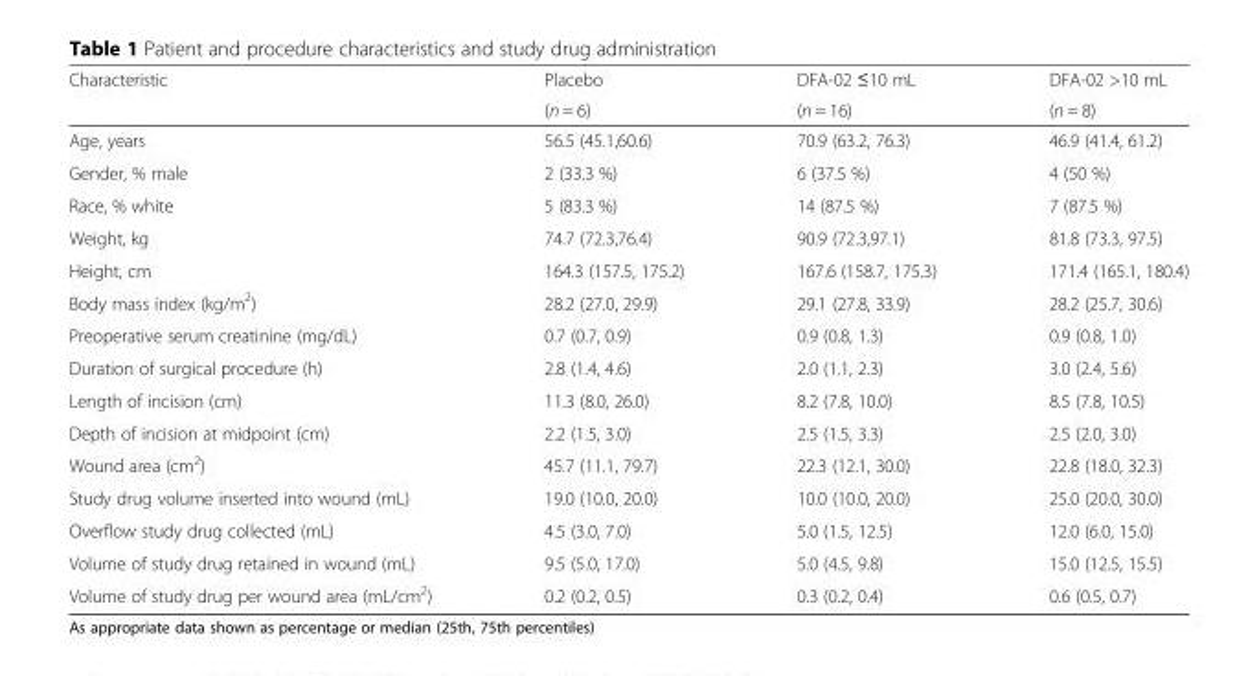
<table><thead><tr><td rowspan="2">Characteristic</td><td rowspan="2">Placebo (n = 6)</td><td rowspan="2">DFA-02 ≤10 mL (n = 16)</td><td rowspan="2">DFA-02 &gt;10 mL (n = 8)</td></tr><tr></tr></thead><tbody><tr><td>Age, years</td><td>56.5 (45.1,60.6)</td><td>70.9 (63.2, 76.3)</td><td>46.9 (41.4, 61.2)</td></tr><tr><td>Gender, % male</td><td>2 (33.3 %)</td><td>6 (37.5 %)</td><td>4 (50 %)</td></tr><tr><td>Race, % white</td><td>5 (83.3 %)</td><td>14 (87.5 %)</td><td>7 (87.5 %)</td></tr><tr><td>Weight, kg</td><td>74.7 (72.3,76.4)</td><td>90.9 (72.3,97.1)</td><td>81.8 (73.3, 97.5)</td></tr><tr><td>Height, cm</td><td>164.3 (157.5, 175.2)</td><td>167.6 (158.7, 175.3)</td><td>171.4 (165.1, 180.4)</td></tr><tr><td>Body mass index (kg/m<sup>2</sup>)</td><td>28.2 (27.0, 29.9)</td><td>29.1 (27.8, 33.9)</td><td>28.2 (25.7, 30.6)</td></tr><tr><td>Preoperative serum creatinine (mg/dL)</td><td>0.7 (0.7, 0.9)</td><td>0.9 (0.8, 1.3)</td><td>0.9 (0.8, 1.0)</td></tr><tr><td>Duration of surgical procedure (h)</td><td>2.8 (1.4, 4.6)</td><td>2.0 (1.1, 2.3)</td><td>3.0 (2.4, 5.6)</td></tr><tr><td>Length of incision (cm)</td><td>11.3 (8.0, 26.0)</td><td>8.2 (7.8, 10.0)</td><td>8.5 (7.8, 10.5)</td></tr><tr><td>Depth of incision at midpoint (cm)</td><td>2.2 (1.5, 3.0)</td><td>2.5 (1.5, 3.3)</td><td>2.5 (2.0, 3.0)</td></tr><tr><td>Wound area (cm<sup>2</sup>)</td><td>45.7 (11.1, 79.7)</td><td>22.3 (12.1, 30.0)</td><td>22.8 (18.0, 32.3)</td></tr><tr><td>Study drug volume inserted into wound (mL)</td><td>19.0 (10.0, 20.0)</td><td>10.0 (10.0, 20.0)</td><td>25.0 (20.0, 30.0)</td></tr><tr><td>Overflow study drug collected (mL)</td><td>4.5 (3.0, 7.0)</td><td>5.0 (1.5, 12.5)</td><td>12.0 (6.0, 15.0)</td></tr><tr><td>Volume of study drug retained in wound (mL)</td><td>9.5 (5.0, 17.0)</td><td>5.0 (4.5, 9.8)</td><td>15.0 (12.5, 15.5)</td></tr><tr><td>Volume of study drug per wound area (mL/cm<sup>2</sup>)</td><td>0.2 (0.2, 0.5)</td><td>0.3 (0.2, 0.4)</td><td>0.6 (0.5, 0.7)</td></tr></tbody></table>